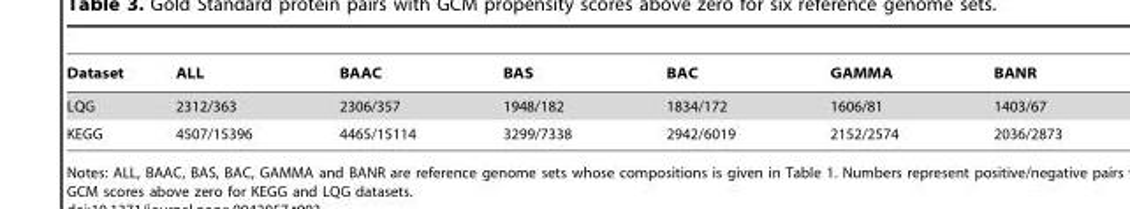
<table><thead><tr><td>Dataset</td><td>ALL</td><td>BAAC</td><td>BAS</td><td>BAC</td><td>GAMMA</td><td>BANR</td></tr></thead><tbody><tr><td>LQG</td><td>2312/363</td><td>2306/357</td><td>1948/182</td><td>1834/172</td><td>1606/81</td><td>1403/67</td></tr><tr><td>KEGG</td><td>4507/15396</td><td>4465/15114</td><td>3299/7338</td><td>2942/6019</td><td>2152/2574</td><td>2036/2873</td></tr></tbody></table>